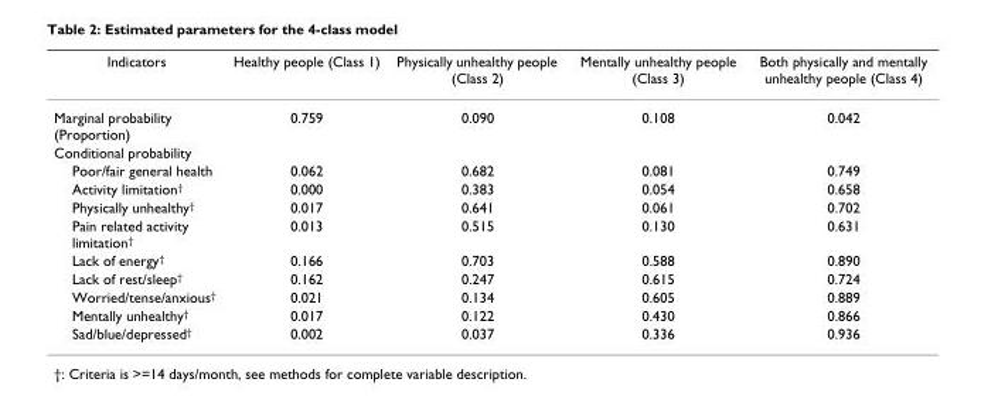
<table><thead><tr><td>Indicators</td><td>Healthy people (Class 1)</td><td>Physically unhealthy people (Class 2)</td><td>Mentally unhealthy people (Class 3)</td><td>Both physically and mentally unhealthy people (Class 4)</td></tr></thead><tbody><tr><td>Marginal probability (Proportion)</td><td>0.759</td><td>0.090</td><td>0.108</td><td>0.042</td></tr><tr><td colspan="5">Conditional probability</td></tr><tr><td>Poor/fair general health</td><td>0.062</td><td>0.682</td><td>0.081</td><td>0.749</td></tr><tr><td>Activity limitation<sup>†</sup></td><td>0.000</td><td>0.383</td><td>0.054</td><td>0.658</td></tr><tr><td>Physically unhealthy<sup>†</sup></td><td>0.017</td><td>0.641</td><td>0.061</td><td>0.702</td></tr><tr><td>Pain related activity limitation<sup>†</sup></td><td>0.013</td><td>0.515</td><td>0.130</td><td>0.631</td></tr><tr><td>Lack of energy<sup>†</sup></td><td>0.166</td><td>0.703</td><td>0.588</td><td>0.890</td></tr><tr><td>Lack of rest/sleep<sup>†</sup></td><td>0.162</td><td>0.247</td><td>0.615</td><td>0.724</td></tr><tr><td>Worried/tense/anxious<sup>†</sup></td><td>0.021</td><td>0.134</td><td>0.605</td><td>0.889</td></tr><tr><td>Mentally unhealthy<sup>†</sup></td><td>0.017</td><td>0.122</td><td>0.430</td><td>0.866</td></tr><tr><td>Sad/blue/depressed<sup>†</sup></td><td>0.002</td><td>0.037</td><td>0.336</td><td>0.936</td></tr></tbody></table>